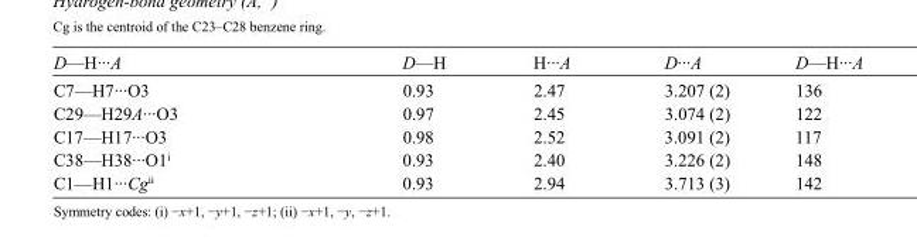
<table><tbody><tr><td>D—H···A</td><td>D—H</td><td>H···A</td><td>D···A</td><td>D—H···A</td></tr><tr><td>C7—H7···O3</td><td>0.93</td><td>2.47</td><td>3.207 (2)</td><td>136</td></tr><tr><td>C29—H29A···O3</td><td>0.97</td><td>2.45</td><td>3.074 (2)</td><td>122</td></tr><tr><td>C17—H17···O3</td><td>0.98</td><td>2.52</td><td>3.091 (2)</td><td>117</td></tr><tr><td>C38—H38···O1<sup>i</sup></td><td>0.93</td><td>2.40</td><td>3.226 (2)</td><td>148</td></tr><tr><td>C1—H1···Cg<sup>ii</sup></td><td>0.93</td><td>2.94</td><td>3.713 (3)</td><td>142</td></tr></tbody></table>